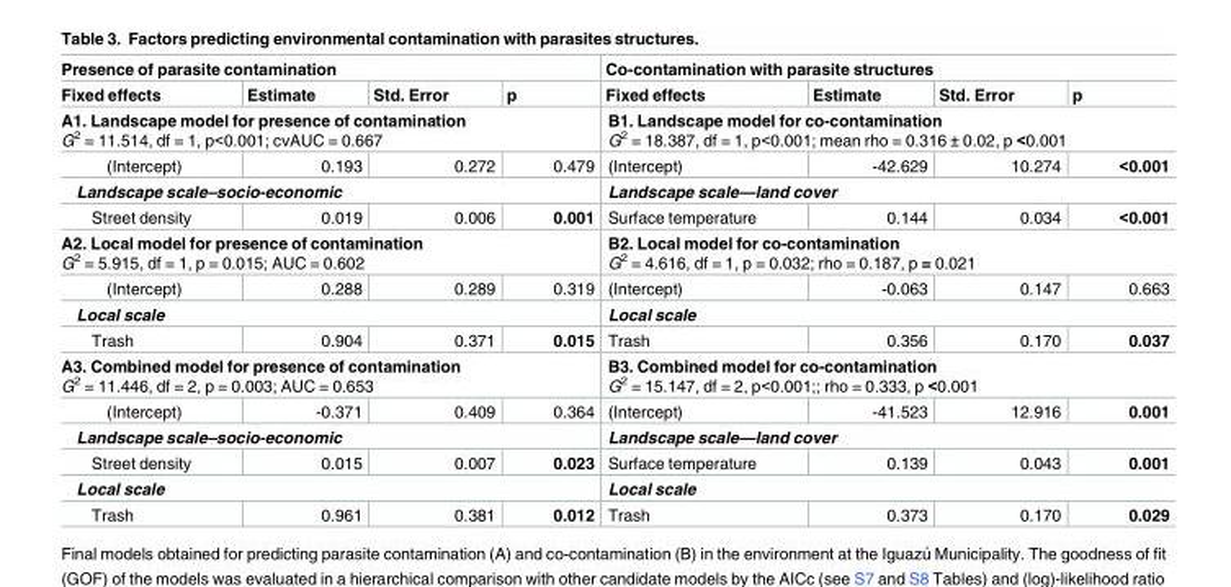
<table><thead><tr><td colspan="4">Presence of parasite contamination</td><td colspan="4">Co-contamination with parasite structures</td></tr><tr><td>Fixed effects</td><td>Estimate</td><td>Std. Error</td><td>p</td><td>Fixed effects</td><td>Estimate</td><td>Std. Error</td><td>p</td></tr></thead><tbody><tr><td colspan="4">A1. Landscape model for presence of contamination G<sup>2</sup> = 11.514, df = 1, p&lt;0.001; cvAUC = 0.667</td><td colspan="4">B1. Landscape model for co-contamination G<sup>2</sup> = 18.387, df = 1, p&lt;0.001; mean rho = 0.316 ± 0.02, p &lt;0.001</td></tr><tr><td>(Intercept)</td><td>0.193</td><td>0.272</td><td>0.479</td><td>(Intercept)</td><td>-42.629</td><td>10.274</td><td>&lt;0.001</td></tr><tr><td colspan="4">Landscape scale–socio-economic</td><td colspan="4">Landscape scale—land cover</td></tr><tr><td>Street density</td><td>0.019</td><td>0.006</td><td>0.001</td><td>Surface temperature</td><td>0.144</td><td>0.034</td><td>&lt;0.001</td></tr><tr><td colspan="4">A2. Local model for presence of contamination G<sup>2</sup> = 5.915, df = 1, p = 0.015; AUC = 0.602</td><td colspan="4">B2. Local model for co-contamination G<sup>2</sup> = 4.616, df = 1, p = 0.032; rho = 0.187, p = 0.021</td></tr><tr><td>(Intercept)</td><td>0.288</td><td>0.289</td><td>0.319</td><td>(Intercept)</td><td>-0.063</td><td>0.147</td><td>0.663</td></tr><tr><td colspan="4">Local scale</td><td colspan="4">Local scale</td></tr><tr><td>Trash</td><td>0.904</td><td>0.371</td><td>0.015</td><td>Trash</td><td>0.356</td><td>0.170</td><td>0.037</td></tr><tr><td colspan="4">A3. Combined model for presence of contamination G<sup>2</sup> = 11.446, df = 2, p = 0.003; AUC = 0.653</td><td colspan="4">B3. Combined model for co-contamination G<sup>2</sup> = 15.147, df = 2, p&lt;0.001;; rho = 0.333, p &lt;0.001</td></tr><tr><td>(Intercept)</td><td>-0.371</td><td>0.409</td><td>0.364</td><td>(Intercept)</td><td>-41.523</td><td>12.916</td><td>0.001</td></tr><tr><td colspan="4">Landscape scale–socio-economic</td><td colspan="4">Landscape scale—land cover</td></tr><tr><td>Street density</td><td>0.015</td><td>0.007</td><td>0.023</td><td>Surface temperature</td><td>0.139</td><td>0.043</td><td>0.001</td></tr><tr><td colspan="4">Local scale</td><td colspan="4">Local scale</td></tr><tr><td>Trash</td><td>0.961</td><td>0.381</td><td>0.012</td><td>Trash</td><td>0.373</td><td>0.170</td><td>0.029</td></tr></tbody></table>